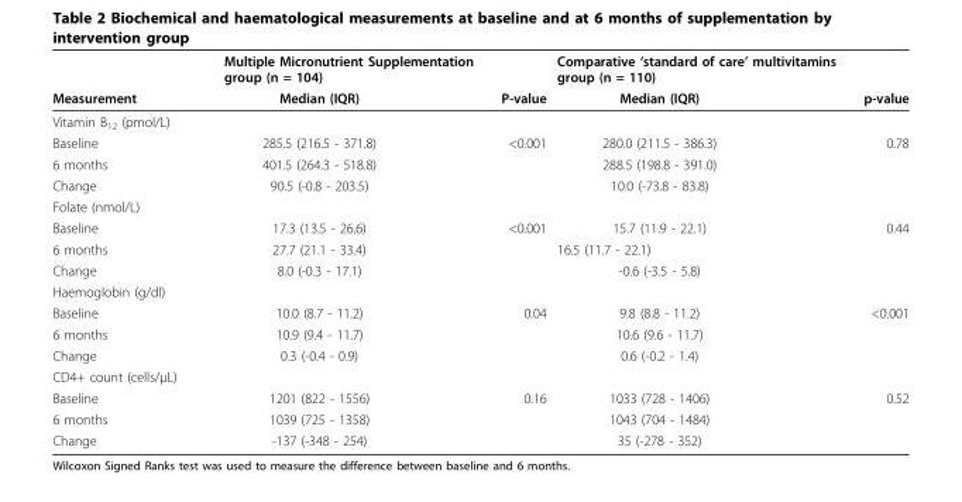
<table><thead><tr><td rowspan="2">Measurement</td><td colspan="2">Multiple Micronutrient Supplementation group (n = 104)</td><td colspan="2">Comparative ‘standard of care’ multivitamins group (n = 110)</td></tr><tr><td>Median (IQR)</td><td>P-value</td><td>Median (IQR)</td><td>p-value</td></tr></thead><tbody><tr><td colspan="5">Vitamin B<sub>12</sub> (pmol/L)</td></tr><tr><td>Baseline</td><td>285.5 (216.5 - 371.8)</td><td>&lt;0.001</td><td>280.0 (211.5 - 386.3)</td><td>0.78</td></tr><tr><td>6 months</td><td>401.5 (264.3 - 518.8)</td><td></td><td>288.5 (198.8 - 391.0)</td><td></td></tr><tr><td>Change</td><td>90.5 (-0.8 - 203.5)</td><td></td><td>10.0 (-73.8 - 83.8)</td><td></td></tr><tr><td colspan="5">Folate (nmol/L)</td></tr><tr><td>Baseline</td><td>17.3 (13.5 - 26.6)</td><td>&lt;0.001</td><td>15.7 (11.9 - 22.1)</td><td>0.44</td></tr><tr><td>6 months</td><td>27.7 (21.1 - 33.4)</td><td></td><td>16.5 (11.7 - 22.1)</td><td></td></tr><tr><td>Change</td><td>8.0 (-0.3 - 17.1)</td><td></td><td>-0.6 (-3.5 - 5.8)</td><td></td></tr><tr><td colspan="5">Haemoglobin (g/dl)</td></tr><tr><td>Baseline</td><td>10.0 (8.7 - 11.2)</td><td>0.04</td><td>9.8 (8.8 - 11.2)</td><td>&lt;0.001</td></tr><tr><td>6 months</td><td>10.9 (9.4 - 11.7)</td><td></td><td>10.6 (9.6 - 11.7)</td><td></td></tr><tr><td>Change</td><td>0.3 (-0.4 - 0.9)</td><td></td><td>0.6 (-0.2 - 1.4)</td><td></td></tr><tr><td colspan="5">CD4+ count (cells/μL)</td></tr><tr><td>Baseline</td><td>1201 (822 - 1556)</td><td>0.16</td><td>1033 (728 - 1406)</td><td>0.52</td></tr><tr><td>6 months</td><td>1039 (725 - 1358)</td><td></td><td>1043 (704 - 1484)</td><td></td></tr><tr><td>Change</td><td>-137 (-348 - 254)</td><td></td><td>35 (-278 - 352)</td><td></td></tr></tbody></table>